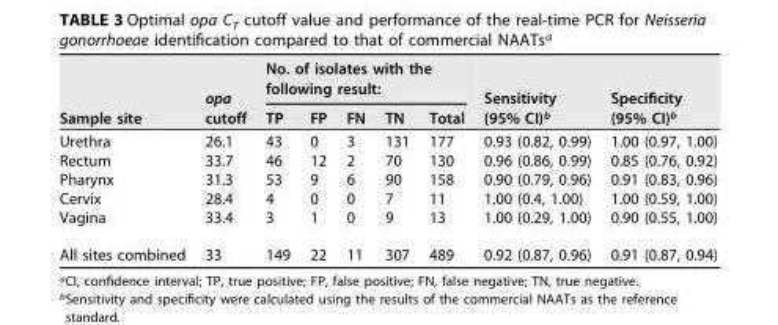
<table><thead><tr><td rowspan="2">Sample site</td><td rowspan="2">opa cutoff</td><td colspan="5">No. of isolates with the following result:</td><td rowspan="2">Sensitivity (95% CI)<sup>b</sup></td><td rowspan="2">Specificity (95% CI)<sup>b</sup></td></tr><tr><td>TP</td><td>FP</td><td>FN</td><td>TN</td><td>Total</td></tr></thead><tbody><tr><td>Urethra</td><td>26.1</td><td>43</td><td>0</td><td>3</td><td>131</td><td>177</td><td>0.93 (0.82, 0.99)</td><td>1.00 (0.97, 1.00)</td></tr><tr><td>Rectum</td><td>33.7</td><td>46</td><td>12</td><td>2</td><td>70</td><td>130</td><td>0.96 (0.86, 0.99)</td><td>0.85 (0.76, 0.92)</td></tr><tr><td>Pharynx</td><td>31.3</td><td>53</td><td>9</td><td>6</td><td>90</td><td>158</td><td>0.90 (0.79, 0.96)</td><td>0.91 (0.83, 0.96)</td></tr><tr><td>Cervix</td><td>28.4</td><td>4</td><td>0</td><td>0</td><td>7</td><td>11</td><td>1.00 (0.4, 1.00)</td><td>1.00 (0.59, 1.00)</td></tr><tr><td>Vagina</td><td>33.4</td><td>3</td><td>1</td><td>0</td><td>9</td><td>13</td><td>1.00 (0.29, 1.00)</td><td>0.90 (0.55, 1.00)</td></tr><tr><td>All sites combined</td><td>33</td><td>149</td><td>22</td><td>11</td><td>307</td><td>489</td><td>0.92 (0.87, 0.96)</td><td>0.91 (0.87, 0.94)</td></tr></tbody></table>